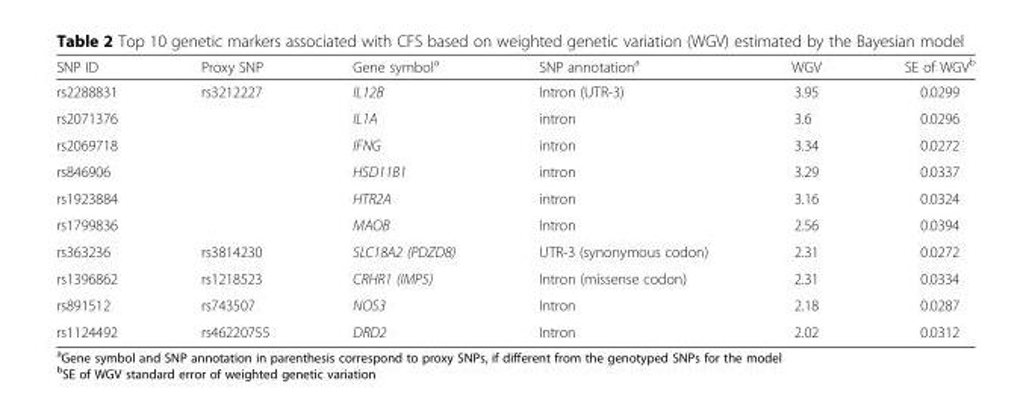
<table><thead><tr><td>SNP ID</td><td>Proxy SNP</td><td>Gene symbol<sup>a</sup></td><td>SNP annotation<sup>a</sup></td><td>WGV</td><td>SE of WGV<sup>b</sup></td></tr></thead><tbody><tr><td>rs2288831</td><td>rs3212227</td><td>IL12B</td><td>Intron (UTR-3)</td><td>3.95</td><td>0.0299</td></tr><tr><td>rs2071376</td><td></td><td>IL1A</td><td>intron</td><td>3.6</td><td>0.0296</td></tr><tr><td>rs2069718</td><td></td><td>IFNG</td><td>intron</td><td>3.34</td><td>0.0272</td></tr><tr><td>rs846906</td><td></td><td>HSD11B1</td><td>intron</td><td>3.29</td><td>0.0337</td></tr><tr><td>rs1923884</td><td></td><td>HTR2A</td><td>intron</td><td>3.16</td><td>0.0324</td></tr><tr><td>rs1799836</td><td></td><td>MAOB</td><td>Intron</td><td>2.56</td><td>0.0394</td></tr><tr><td>rs363236</td><td>rs3814230</td><td>SLC18A2 (PDZD8)</td><td>UTR-3 (synonymous codon)</td><td>2.31</td><td>0.0272</td></tr><tr><td>rs1396862</td><td>rs1218523</td><td>CRHR1 (IMP5)</td><td>Intron (missense codon)</td><td>2.31</td><td>0.0334</td></tr><tr><td>rs891512</td><td>rs743507</td><td>NOS3</td><td>Intron</td><td>2.18</td><td>0.0287</td></tr><tr><td>rs1124492</td><td>rs46220755</td><td>DRD2</td><td>Intron</td><td>2.02</td><td>0.0312</td></tr></tbody></table>